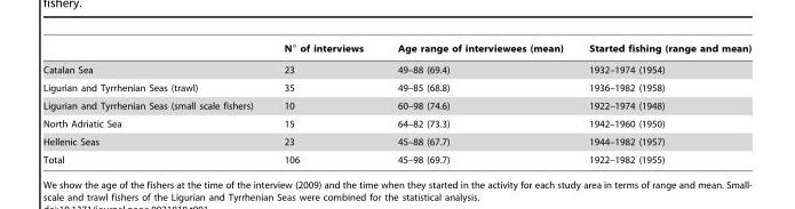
<table><thead><tr><td></td><td>N° of interviews</td><td>Age range of interviewees (mean)</td><td>Started fishing (range and mean)</td></tr></thead><tbody><tr><td>Catalan Sea</td><td>23</td><td>49–88 (69.4)</td><td>1932–1974 (1954)</td></tr><tr><td>Ligurian and Tyrrhenian Seas (trawl)</td><td>35</td><td>49–85 (68.8)</td><td>1936–1982 (1958)</td></tr><tr><td>Ligurian and Tyrrhenian Seas (small scale fishers)</td><td>10</td><td>60–98 (74.6)</td><td>1922–1974 (1948)</td></tr><tr><td>North Adriatic Sea</td><td>15</td><td>64–82 (73.3)</td><td>1942–1960 (1950)</td></tr><tr><td>Hellenic Seas</td><td>23</td><td>45–88 (67.7)</td><td>1944–1982 (1957)</td></tr><tr><td>Total</td><td>106</td><td>45–98 (69.7)</td><td>1922–1982 (1955)</td></tr></tbody></table>